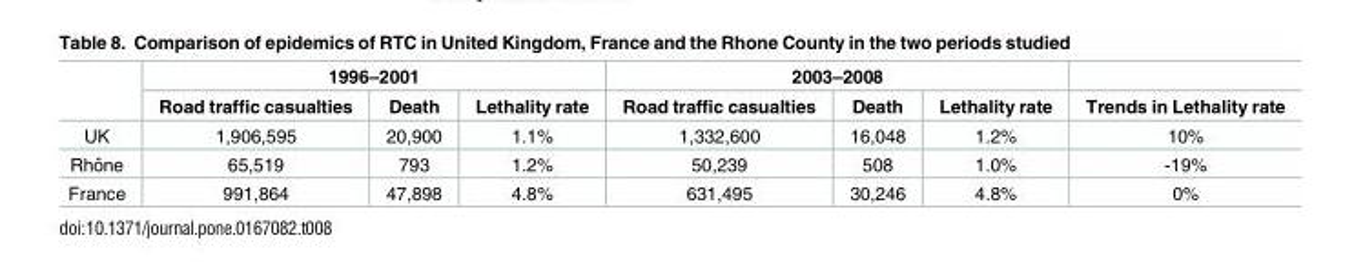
<table><thead><tr><td rowspan="2"></td><td colspan="3">1996–2001</td><td colspan="3">2003–2008</td><td rowspan="2">Trends in Lethality rate</td></tr><tr><td>Road traffic casualties</td><td>Death</td><td>Lethality rate</td><td>Road traffic casualties</td><td>Death</td><td>Lethality rate</td></tr></thead><tbody><tr><td>UK</td><td>1,906,595</td><td>20,900</td><td>1.1%</td><td>1,332,600</td><td>16,048</td><td>1.2%</td><td>10%</td></tr><tr><td>Rhoˆne</td><td>65,519</td><td>793</td><td>1.2%</td><td>50,239</td><td>508</td><td>1.0%</td><td>-19%</td></tr><tr><td>France</td><td>991,864</td><td>47,898</td><td>4.8%</td><td>631,495</td><td>30,246</td><td>4.8%</td><td>0%</td></tr></tbody></table>